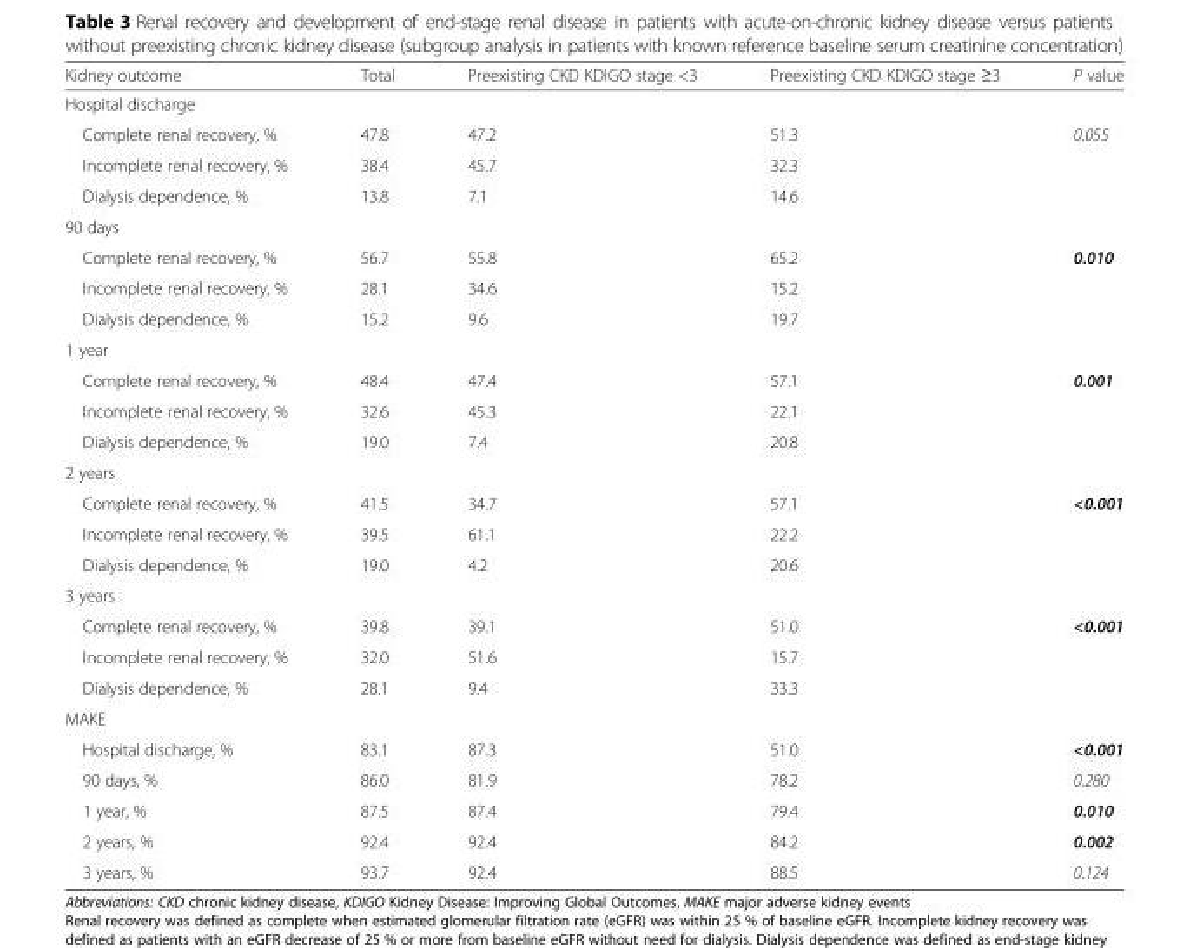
<table><thead><tr><td>Kidney outcome</td><td>Total</td><td>Preexisting CKD KDIGO stage &lt;3</td><td>Preexisting CKD KDIGO stage ≥3</td><td>P value</td></tr></thead><tbody><tr><td colspan="5">Hospital discharge</td></tr><tr><td>Complete renal recovery, %</td><td>47.8</td><td>47.2</td><td>51.3</td><td rowspan="3">0.055</td></tr><tr><td>Incomplete renal recovery, %</td><td>38.4</td><td>45.7</td><td>32.3</td></tr><tr><td>Dialysis dependence, %</td><td>13.8</td><td>7.1</td><td>14.6</td></tr><tr><td colspan="5">90 days</td></tr><tr><td>Complete renal recovery, %</td><td>56.7</td><td>55.8</td><td>65.2</td><td rowspan="3">0.010</td></tr><tr><td>Incomplete renal recovery, %</td><td>28.1</td><td>34.6</td><td>15.2</td></tr><tr><td>Dialysis dependence, %</td><td>15.2</td><td>9.6</td><td>19.7</td></tr><tr><td colspan="5">1 year</td></tr><tr><td>Complete renal recovery, %</td><td>48.4</td><td>47.4</td><td>57.1</td><td rowspan="3">0.001</td></tr><tr><td>Incomplete renal recovery, %</td><td>32.6</td><td>45.3</td><td>22.1</td></tr><tr><td>Dialysis dependence, %</td><td>19.0</td><td>7.4</td><td>20.8</td></tr><tr><td colspan="5">2 years</td></tr><tr><td>Complete renal recovery, %</td><td>41.5</td><td>34.7</td><td>57.1</td><td rowspan="3">&lt;0.001</td></tr><tr><td>Incomplete renal recovery, %</td><td>39.5</td><td>61.1</td><td>22.2</td></tr><tr><td>Dialysis dependence, %</td><td>19.0</td><td>4.2</td><td>20.6</td></tr><tr><td colspan="5">3 years</td></tr><tr><td>Complete renal recovery, %</td><td>39.8</td><td>39.1</td><td>51.0</td><td rowspan="3">&lt;0.001</td></tr><tr><td>Incomplete renal recovery, %</td><td>32.0</td><td>51.6</td><td>15.7</td></tr><tr><td>Dialysis dependence, %</td><td>28.1</td><td>9.4</td><td>33.3</td></tr><tr><td colspan="5">MAKE</td></tr><tr><td>Hospital discharge, %</td><td>83.1</td><td>87.3</td><td>51.0</td><td>&lt;0.001</td></tr><tr><td>90 days, %</td><td>86.0</td><td>81.9</td><td>78.2</td><td>0.280</td></tr><tr><td>1 year, %</td><td>87.5</td><td>87.4</td><td>79.4</td><td>0.010</td></tr><tr><td>2 years, %</td><td>92.4</td><td>92.4</td><td>84.2</td><td>0.002</td></tr><tr><td>3 years, %</td><td>93.7</td><td>92.4</td><td>88.5</td><td>0.124</td></tr></tbody></table>